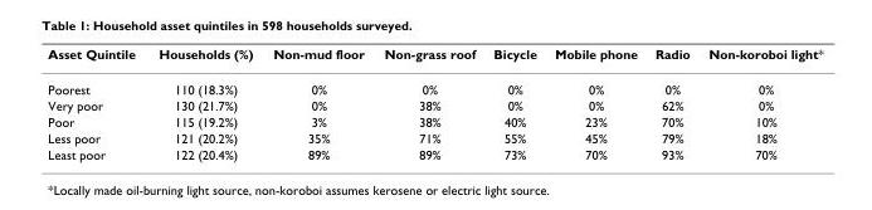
<table><thead><tr><td>Asset Quintile</td><td>Households (%)</td><td>Non-mud floor</td><td>Non-grass roof</td><td>Bicycle</td><td>Mobile phone</td><td>Radio</td><td>Non-koroboi light*</td></tr></thead><tbody><tr><td>Poorest</td><td>110 (18.3%)</td><td>0%</td><td>0%</td><td>0%</td><td>0%</td><td>0%</td><td>0%</td></tr><tr><td>Very poor</td><td>130 (21.7%)</td><td>0%</td><td>38%</td><td>0%</td><td>0%</td><td>62%</td><td>0%</td></tr><tr><td>Poor</td><td>115 (19.2%)</td><td>3%</td><td>38%</td><td>40%</td><td>23%</td><td>70%</td><td>10%</td></tr><tr><td>Less poor</td><td>121 (20.2%)</td><td>35%</td><td>71%</td><td>55%</td><td>45%</td><td>79%</td><td>18%</td></tr><tr><td>Least poor</td><td>122 (20.4%)</td><td>89%</td><td>89%</td><td>73%</td><td>70%</td><td>93%</td><td>70%</td></tr></tbody></table>